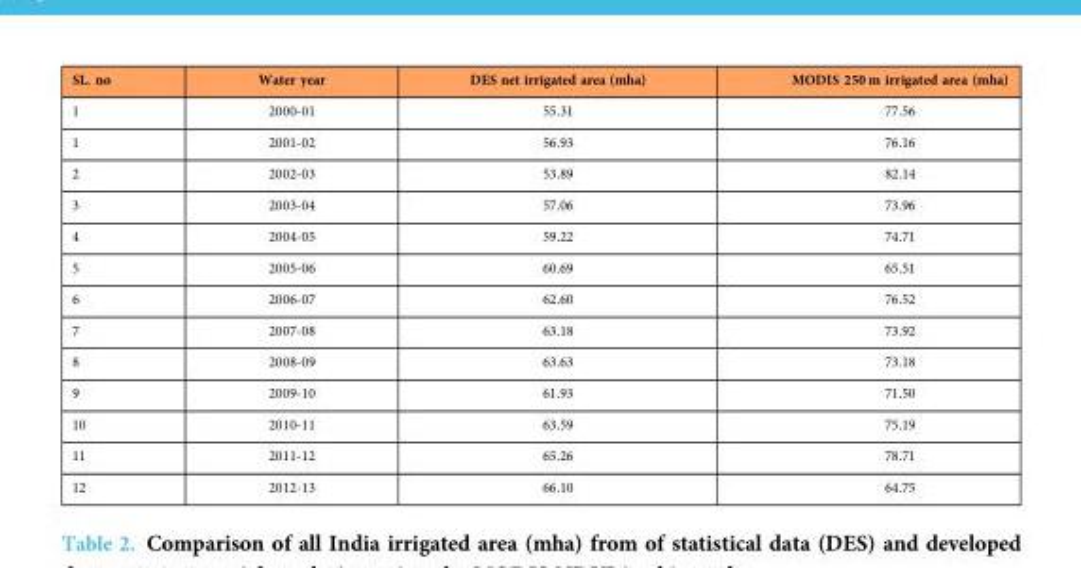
<table><thead><tr><td>SL. no</td><td>Water year</td><td>DES net irrigated area (mha)</td><td>MODIS 250 m irrigated area (mha)</td></tr></thead><tbody><tr><td>1</td><td>2000-01</td><td>55.31</td><td>77.56</td></tr><tr><td>1</td><td>2001-02</td><td>56.93</td><td>76.16</td></tr><tr><td>2</td><td>2002-03</td><td>53.89</td><td>82.14</td></tr><tr><td>3</td><td>2003-04</td><td>57.06</td><td>73.96</td></tr><tr><td>4</td><td>2004-05</td><td>59.22</td><td>74.71</td></tr><tr><td>5</td><td>2005-06</td><td>60.69</td><td>65.51</td></tr><tr><td>6</td><td>2006-07</td><td>62.60</td><td>76.52</td></tr><tr><td>7</td><td>2007-08</td><td>63.18</td><td>73.92</td></tr><tr><td>8</td><td>2008-09</td><td>63.63</td><td>73.18</td></tr><tr><td>9</td><td>2009-10</td><td>61.93</td><td>71.50</td></tr><tr><td>10</td><td>2010-11</td><td>63.59</td><td>75.19</td></tr><tr><td>11</td><td>2011-12</td><td>65.26</td><td>78.71</td></tr><tr><td>12</td><td>2012-13</td><td>66.10</td><td>64.75</td></tr></tbody></table>